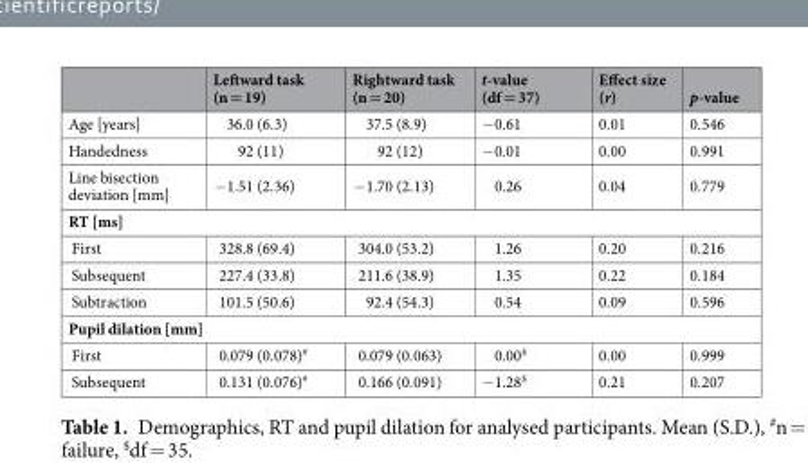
<table><thead><tr><td></td><td>Leftward task (n = 19)</td><td>Rightward task (n = 20)</td><td>t-value (df = 37)</td><td>Effect size (r)</td><td>p-value</td></tr></thead><tbody><tr><td>Age [years]</td><td>36.0 (6.3)</td><td>37.5 (8.9)</td><td>−0.61</td><td>0.01</td><td>0.546</td></tr><tr><td>Handedness</td><td>92 (11)</td><td>92 (12)</td><td>−0.01</td><td>0.00</td><td>0.991</td></tr><tr><td>Line bisection deviation [mm]</td><td>−1.51 (2.36)</td><td>−1.70 (2.13)</td><td>0.26</td><td>0.04</td><td>0.779</td></tr><tr><td colspan="6">RT [ms]</td></tr><tr><td>First</td><td>328.8 (69.4)</td><td>304.0 (53.2)</td><td>1.26</td><td>0.20</td><td>0.216</td></tr><tr><td>Subsequent</td><td>227.4 (33.8)</td><td>211.6 (38.9)</td><td>1.35</td><td>0.22</td><td>0.184</td></tr><tr><td>Subtraction</td><td>101.5 (50.6)</td><td>92.4 (54.3)</td><td>0.54</td><td>0.09</td><td>0.596</td></tr><tr><td colspan="6">Pupil dilation [mm]</td></tr><tr><td>First</td><td>0.079 (0.078)<sup>#</sup></td><td>0.079 (0.063)</td><td>0.00<sup>$</sup></td><td>0.00</td><td>0.999</td></tr><tr><td>Subsequent</td><td>0.131 (0.076)<sup>#</sup></td><td>0.166 (0.091)</td><td>−1.28<sup>$</sup></td><td>0.21</td><td>0.207</td></tr></tbody></table>